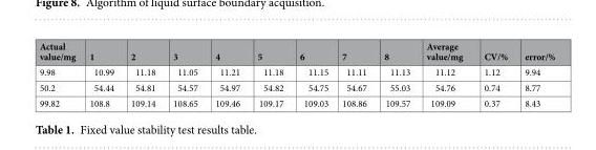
<table><thead><tr><td>Actual value/mg</td><td>1</td><td>2</td><td>3</td><td>4</td><td>5</td><td>6</td><td>7</td><td>8</td><td>Average value/mg</td><td>CV/%</td><td>error/%</td></tr></thead><tbody><tr><td>9.98</td><td>10.99</td><td>11.18</td><td>11.05</td><td>11.21</td><td>11.18</td><td>11.15</td><td>11.11</td><td>11.13</td><td>11.12</td><td>1.12</td><td>9.94</td></tr><tr><td>50.2</td><td>54.44</td><td>54.81</td><td>54.57</td><td>54.97</td><td>54.82</td><td>54.75</td><td>54.67</td><td>55.03</td><td>54.76</td><td>0.74</td><td>8.77</td></tr><tr><td>99.82</td><td>108.8</td><td>109.14</td><td>108.65</td><td>109.46</td><td>109.17</td><td>109.03</td><td>108.86</td><td>109.57</td><td>109.09</td><td>0.37</td><td>8.43</td></tr></tbody></table>